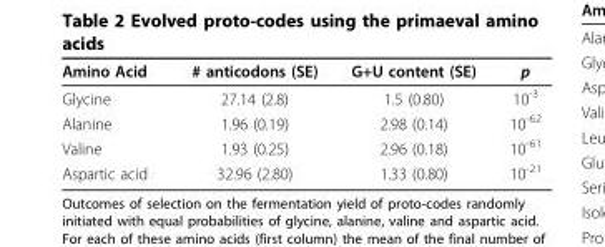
<table><thead><tr><td>Amino Acid</td><td># anticodons (SE)</td><td>G+U content (SE)</td><td>p</td></tr></thead><tbody><tr><td>Glycine</td><td>27.14 (2.8)</td><td>1.5 (0.80)</td><td>10<sup>-3</sup></td></tr><tr><td>Alanine</td><td>1.96 (0.19)</td><td>2.98 (0.14)</td><td>10<sup>-62</sup></td></tr><tr><td>Valine</td><td>1.93 (0.25)</td><td>2.96 (0.18)</td><td>10<sup>-61</sup></td></tr><tr><td>Aspartic acid</td><td>32.96 (2.80)</td><td>1.33 (0.80)</td><td>10<sup>-21</sup></td></tr></tbody></table>